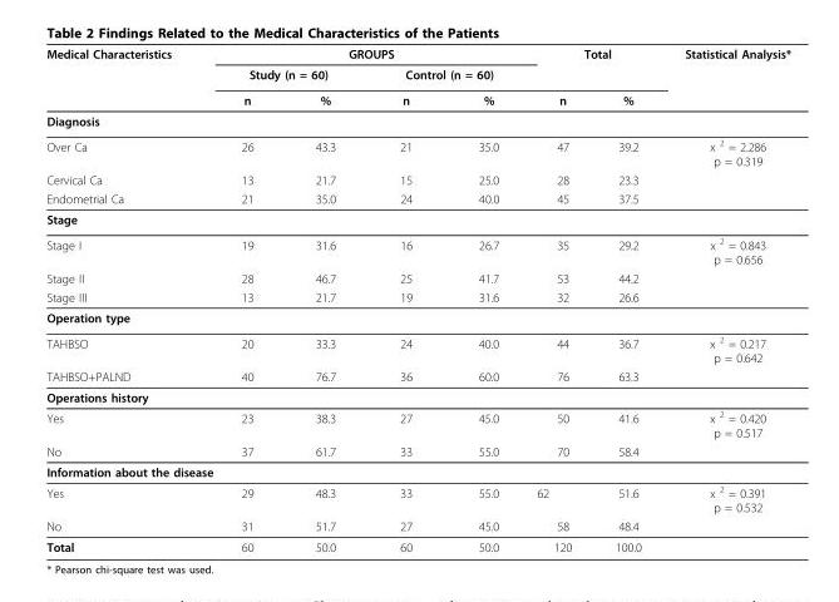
<table><thead><tr><td rowspan="3">Medical Characteristics</td><td colspan="4">GROUPS</td><td colspan="2">Total</td><td rowspan="3">Statistical Analysis*</td></tr><tr><td colspan="2">Study (n = 60)</td><td colspan="2">Control (n = 60)</td><td rowspan="2">n</td><td rowspan="2">%</td></tr><tr><td>n</td><td>%</td><td>n</td><td>%</td></tr></thead><tbody><tr><td colspan="8">Diagnosis</td></tr><tr><td>Over Ca</td><td>26</td><td>43.3</td><td>21</td><td>35.0</td><td>47</td><td>39.2</td><td>x <sup>2</sup> = 2.286 p = 0.319</td></tr><tr><td>Cervical Ca</td><td>13</td><td>21.7</td><td>15</td><td>25.0</td><td>28</td><td>23.3</td><td></td></tr><tr><td>Endometrial Ca</td><td>21</td><td>35.0</td><td>24</td><td>40.0</td><td>45</td><td>37.5</td><td></td></tr><tr><td colspan="8">Stage</td></tr><tr><td>Stage I</td><td>19</td><td>31.6</td><td>16</td><td>26.7</td><td>35</td><td>29.2</td><td>x <sup>2</sup> = 0.843 p = 0.656</td></tr><tr><td>Stage II</td><td>28</td><td>46.7</td><td>25</td><td>41.7</td><td>53</td><td>44.2</td><td></td></tr><tr><td>Stage III</td><td>13</td><td>21.7</td><td>19</td><td>31.6</td><td>32</td><td>26.6</td><td></td></tr><tr><td colspan="8">Operation type</td></tr><tr><td>TAHBSO</td><td>20</td><td>33.3</td><td>24</td><td>40.0</td><td>44</td><td>36.7</td><td>x <sup>2</sup> = 0.217 p = 0.642</td></tr><tr><td>TAHBSO+PALND</td><td>40</td><td>76.7</td><td>36</td><td>60.0</td><td>76</td><td>63.3</td><td></td></tr><tr><td colspan="8">Operations history</td></tr><tr><td>Yes</td><td>23</td><td>38.3</td><td>27</td><td>45.0</td><td>50</td><td>41.6</td><td>x <sup>2</sup> = 0.420 p = 0.517</td></tr><tr><td>No</td><td>37</td><td>61.7</td><td>33</td><td>55.0</td><td>70</td><td>58.4</td><td></td></tr><tr><td colspan="8">Information about the disease</td></tr><tr><td>Yes</td><td>29</td><td>48.3</td><td>33</td><td>55.0</td><td>62</td><td>51.6</td><td>x <sup>2</sup> = 0.391 p = 0.532</td></tr><tr><td>No</td><td>31</td><td>51.7</td><td>27</td><td>45.0</td><td>58</td><td>48.4</td><td></td></tr><tr><td>Total</td><td>60</td><td>50.0</td><td>60</td><td>50.0</td><td>120</td><td>100.0</td><td></td></tr></tbody></table>